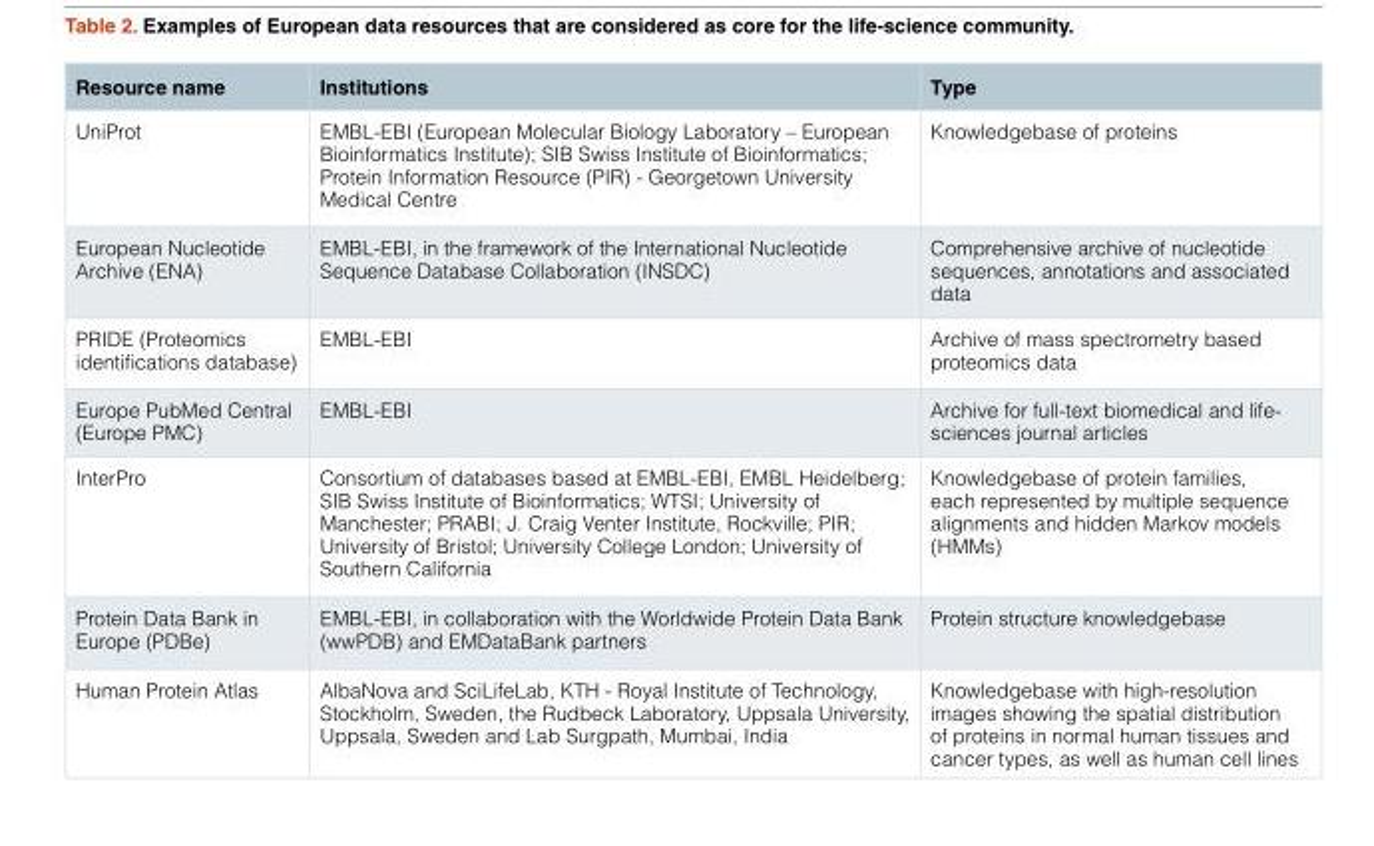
<table><thead><tr><td>Resource name</td><td>Institutions</td><td>Type</td></tr></thead><tbody><tr><td>UniProt</td><td>EMBL-EBI (European Molecular Biology Laboratory – European Bioinformatics Institute); SIB Swiss Institute of Bioinformatics; Protein Information Resource (PIR) - Georgetown University Medical Centre</td><td>Knowledgebase of proteins</td></tr><tr><td>European Nucleotide Archive (ENA)</td><td>EMBL-EBI, in the framework of the International Nucleotide Sequence Database Collaboration (INSDC)</td><td>Comprehensive archive of nucleotide sequences, annotations and associated data</td></tr><tr><td>PRIDE (Proteomics identifications database)</td><td>EMBL-EBI</td><td>Archive of mass spectrometry based proteomics data</td></tr><tr><td>Europe PubMed Central (Europe PMC)</td><td>EMBL-EBI</td><td>Archive for full-text biomedical and life- sciences journal articles</td></tr><tr><td>InterPro</td><td>Consortium of databases based at EMBL-EBI, EMBL Heidelberg; SIB Swiss Institute of Bioinformatics; WTSI; University of Manchester; PRABI; J. Craig Venter Institute, Rockville; PIR; University of Bristol; University College London; University of Southern California</td><td>Knowledgebase of protein families, each represented by multiple sequence alignments and hidden Markov models (HMMs)</td></tr><tr><td>Protein Data Bank in Europe (PDBe)</td><td>EMBL-EBI, in collaboration with the Worldwide Protein Data Bank (wwPDB) and EMDataBank partners</td><td>Protein structure knowledgebase</td></tr><tr><td>Human Protein Atlas</td><td>AlbaNova and SciLifeLab, KTH - Royal Institute of Technology, Stockholm, Sweden, the Rudbeck Laboratory, Uppsala University, Uppsala, Sweden and Lab Surgpath, Mumbai, India</td><td>Knowledgebase with high-resolution images showing the spatial distribution of proteins in normal human tissues and cancer types, as well as human cell lines</td></tr></tbody></table>